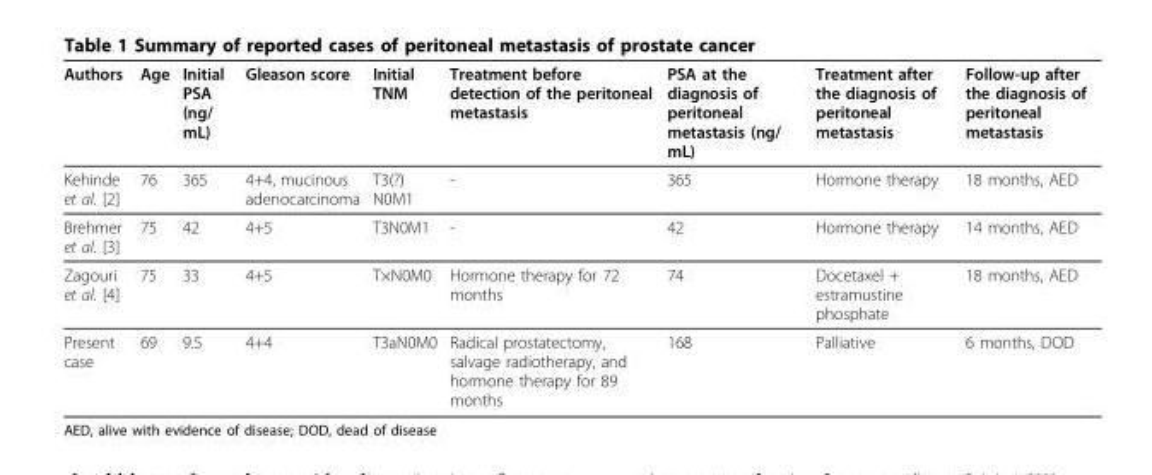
<table><thead><tr><td>Authors</td><td>Age</td><td>Initial PSA (ng/ mL)</td><td>Gleason score</td><td>Initial TNM</td><td>Treatment before detection of the peritoneal metastasis</td><td>PSA at the diagnosis of peritoneal metastasis (ng/ mL)</td><td>Treatment after the diagnosis of peritoneal metastasis</td><td>Follow-up after the diagnosis of peritoneal metastasis</td></tr></thead><tbody><tr><td>Kehinde et al. [2]</td><td>76</td><td>365</td><td>4+4, mucinous adenocarcinoma</td><td>T3(?) N0M1</td><td>-</td><td>365</td><td>Hormone therapy</td><td>18 months, AED</td></tr><tr><td>Brehmer et al. [3]</td><td>75</td><td>42</td><td>4+5</td><td>T3N0M1</td><td>-</td><td>42</td><td>Hormone therapy</td><td>14 months, AED</td></tr><tr><td>Zagouri et al. [4]</td><td>75</td><td>33</td><td>4+5</td><td>T×N0M0</td><td>Hormone therapy for 72 months</td><td>74</td><td>Docetaxel + estramustine phosphate</td><td>18 months, AED</td></tr><tr><td>Present case</td><td>69</td><td>9.5</td><td>4+4</td><td>T3aN0M0</td><td>Radical prostatectomy, salvage radiotherapy, and hormone therapy for 89 months</td><td>168</td><td>Palliative</td><td>6 months, DOD</td></tr></tbody></table>